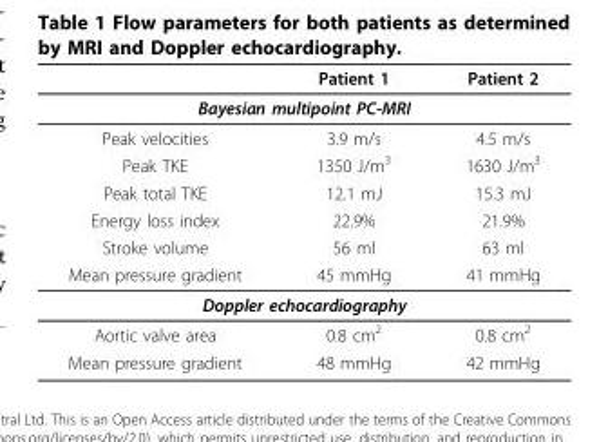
<table><thead><tr><td></td><td>Patient 1</td><td>Patient 2</td></tr></thead><tbody><tr><td colspan="3">Bayesian multipoint PC-MRI</td></tr><tr><td>Peak velocities</td><td>3.9 m/s</td><td>4.5 m/s</td></tr><tr><td>Peak TKE</td><td>1350 J/m<sup>3</sup></td><td>1630 J/m<sup>3</sup></td></tr><tr><td>Peak total TKE</td><td>12.1 mJ</td><td>15.3 mJ</td></tr><tr><td>Energy loss index</td><td>22.9%</td><td>21.9%</td></tr><tr><td>Stroke volume</td><td>56 ml</td><td>63 ml</td></tr><tr><td>Mean pressure gradient</td><td>45 mmHg</td><td>41 mmHg</td></tr><tr><td colspan="3">Doppler echocardiography</td></tr><tr><td>Aortic valve area</td><td>0.8 cm<sup>2</sup></td><td>0.8 cm<sup>2</sup></td></tr><tr><td>Mean pressure gradient</td><td>48 mmHg</td><td>42 mmHg</td></tr></tbody></table>